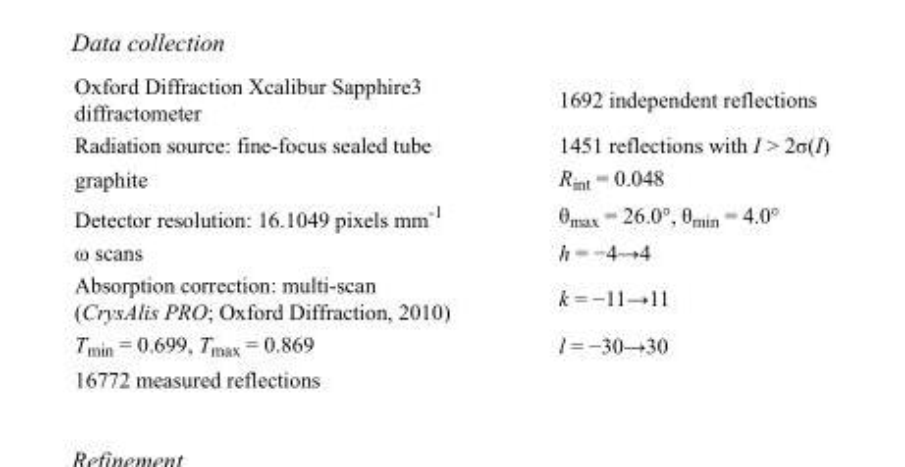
<table><tbody><tr><td>Oxford Diffraction Xcalibur Sapphire3 diffractometer</td><td>1692 independent reflections</td></tr><tr><td>Radiation source: fine-focus sealed tube</td><td>1451 reflections with I &gt; 2σ(I)</td></tr><tr><td>graphite</td><td>R<sub>int</sub> = 0.048</td></tr><tr><td>Detector resolution: 16.1049 pixels mm<sup>-1</sup></td><td>θ<sub>max</sub> = 26.0°, θ<sub>min</sub> = 4.0°</td></tr><tr><td>ω scans</td><td>h = −4→4</td></tr><tr><td>Absorption correction: multi-scan (CrysAlis PRO; Oxford Diffraction, 2010)</td><td>k = −11→11</td></tr><tr><td>T<sub>min</sub> = 0.699, T<sub>max</sub> = 0.869</td><td>l = −30→30</td></tr><tr><td>16772 measured reflections</td><td></td></tr></tbody></table>